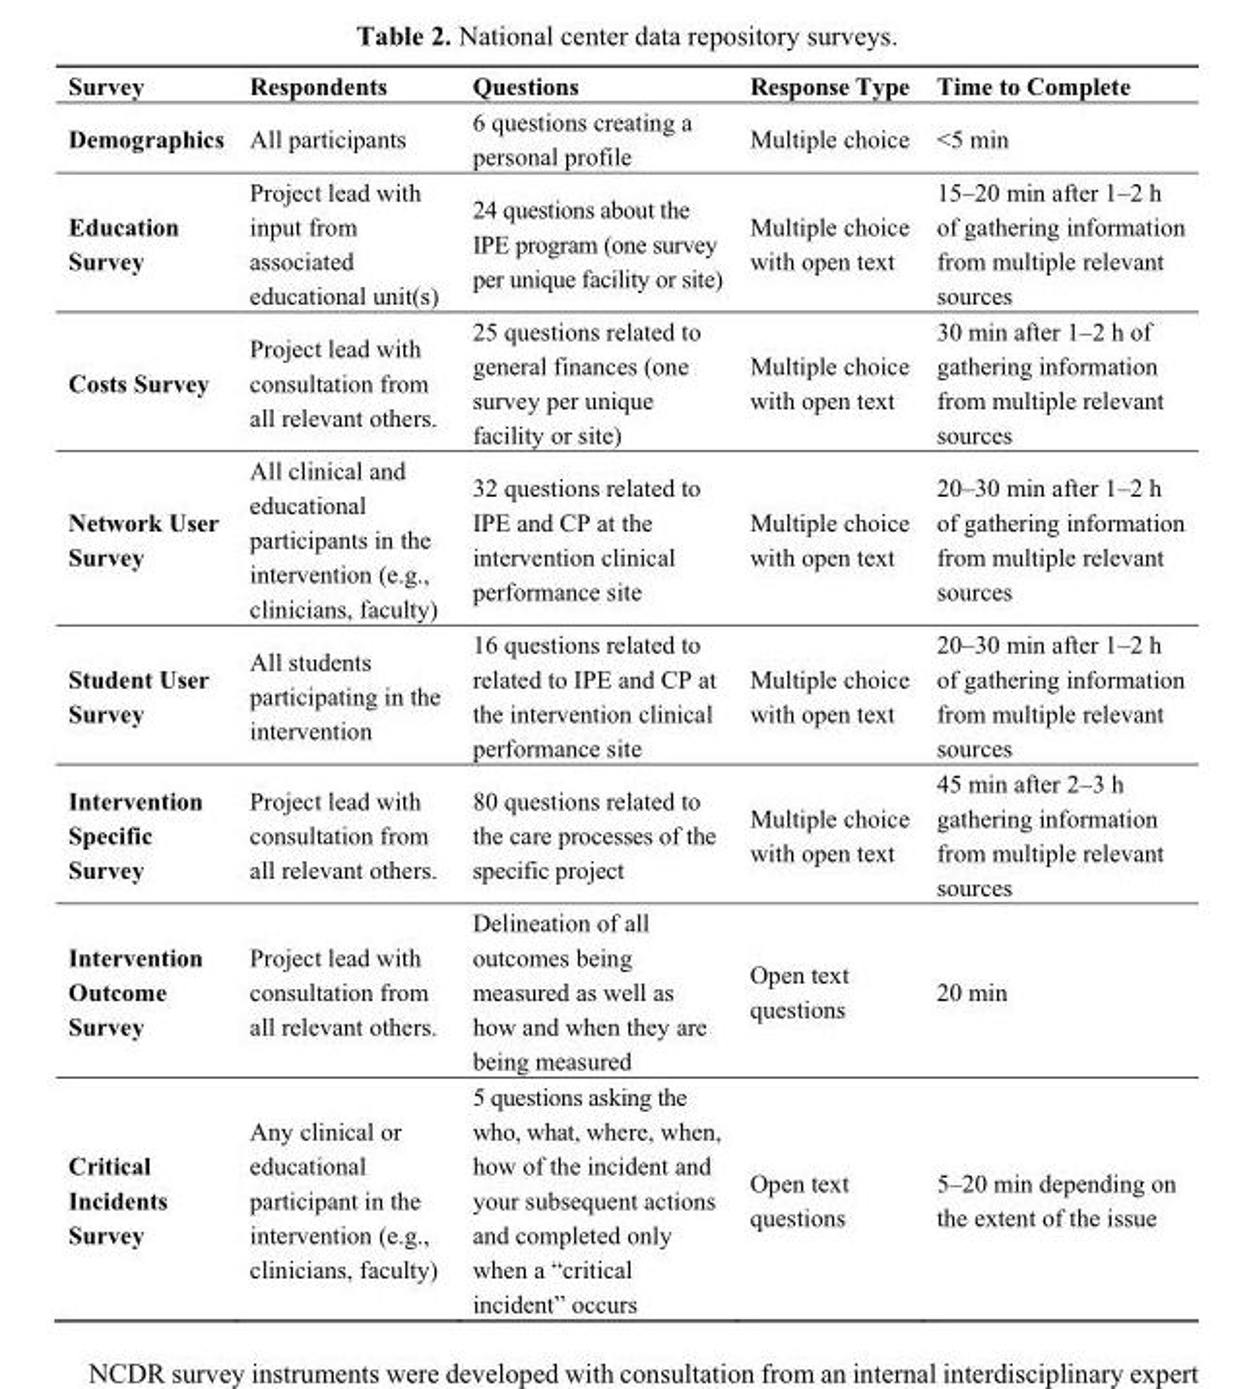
<table><thead><tr><td>Survey</td><td>Respondents</td><td>Questions</td><td>Response Type</td><td>Time to Complete</td></tr></thead><tbody><tr><td>Demographics</td><td>All participants</td><td>6 questions creating a personal profile</td><td>Multiple choice</td><td>&lt;5 min</td></tr><tr><td>Education Survey</td><td>Project lead with input from associated educational unit(s)</td><td>24 questions about the IPE program (one survey per unique facility or site)</td><td>Multiple choice with open text</td><td>15–20 min after 1–2 h of gathering information from multiple relevant sources</td></tr><tr><td>Costs Survey</td><td>Project lead with consultation from all relevant others.</td><td>25 questions related to general finances (one survey per unique facility or site)</td><td>Multiple choice with open text</td><td>30 min after 1–2 h of gathering information from multiple relevant sources</td></tr><tr><td>Network User Survey</td><td>All clinical and educational participants in the intervention (e.g., clinicians, faculty)</td><td>32 questions related to IPE and CP at the intervention clinical performance site</td><td>Multiple choice with open text</td><td>20–30 min after 1–2 h of gathering information from multiple relevant sources</td></tr><tr><td>Student User Survey</td><td>All students participating in the intervention</td><td>16 questions related to related to IPE and CP at the intervention clinical performance site</td><td>Multiple choice with open text</td><td>20–30 min after 1–2 h of gathering information from multiple relevant sources</td></tr><tr><td>Intervention Specific Survey</td><td>Project lead with consultation from all relevant others.</td><td>80 questions related to the care processes of the specific project</td><td>Multiple choice with open text</td><td>45 min after 2–3 h gathering information from multiple relevant sources</td></tr><tr><td>Intervention Outcome Survey</td><td>Project lead with consultation from all relevant others.</td><td>Delineation of all outcomes being measured as well as how and when they are being measured</td><td>Open text questions</td><td>20 min</td></tr><tr><td>Critical Incidents Survey</td><td>Any clinical or educational participant in the intervention (e.g., clinicians, faculty)</td><td>5 questions asking the who, what, where, when, how of the incident and your subsequent actions and completed only when a “critical incident” occurs</td><td>Open text questions</td><td>5–20 min depending on the extent of the issue</td></tr></tbody></table>